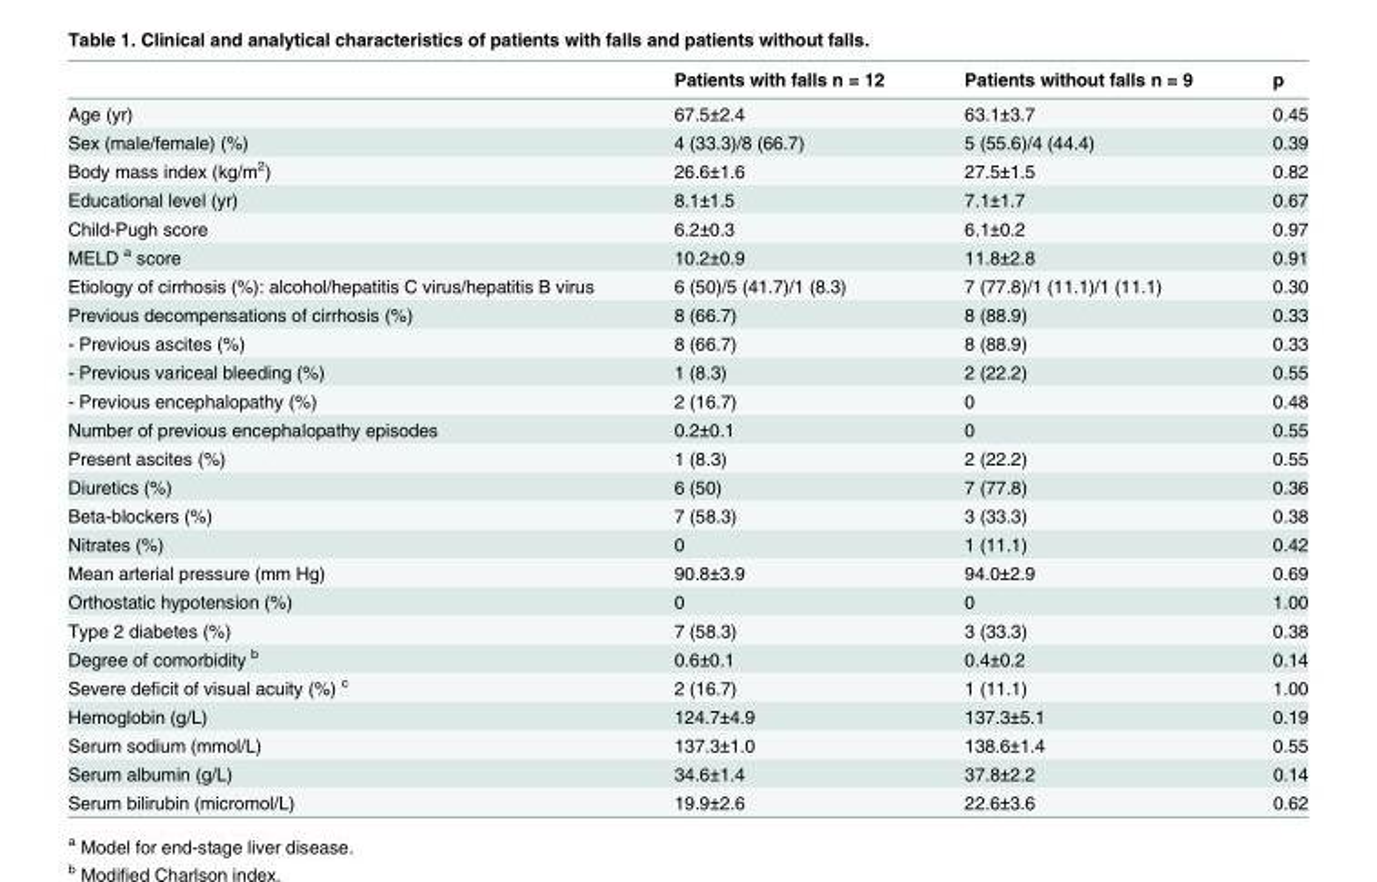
<table><thead><tr><td></td><td>Patients with falls n = 12</td><td>Patients without falls n = 9</td><td>p</td></tr></thead><tbody><tr><td>Age (yr)</td><td>67.5±2.4</td><td>63.1±3.7</td><td>0.45</td></tr><tr><td>Sex (male/female) (%)</td><td>4 (33.3)/8 (66.7)</td><td>5 (55.6)/4 (44.4)</td><td>0.39</td></tr><tr><td>Body mass index (kg/m<sup>2</sup>)</td><td>26.6±1.6</td><td>27.5±1.5</td><td>0.82</td></tr><tr><td>Educational level (yr)</td><td>8.1±1.5</td><td>7.1±1.7</td><td>0.67</td></tr><tr><td>Child-Pugh score</td><td>6.2±0.3</td><td>6.1±0.2</td><td>0.97</td></tr><tr><td>MELD <sup>a</sup> score</td><td>10.2±0.9</td><td>11.8±2.8</td><td>0.91</td></tr><tr><td>Etiology of cirrhosis (%): alcohol/hepatitis C virus/hepatitis B virus</td><td>6 (50)/5 (41.7)/1 (8.3)</td><td>7 (77.8)/1 (11.1)/1 (11.1)</td><td>0.30</td></tr><tr><td>Previous decompensations of cirrhosis (%)</td><td>8 (66.7)</td><td>8 (88.9)</td><td>0.33</td></tr><tr><td>- Previous ascites (%)</td><td>8 (66.7)</td><td>8 (88.9)</td><td>0.33</td></tr><tr><td>- Previous variceal bleeding (%)</td><td>1 (8.3)</td><td>2 (22.2)</td><td>0.55</td></tr><tr><td>- Previous encephalopathy (%)</td><td>2 (16.7)</td><td>0</td><td>0.48</td></tr><tr><td>Number of previous encephalopathy episodes</td><td>0.2±0.1</td><td>0</td><td>0.55</td></tr><tr><td>Present ascites (%)</td><td>1 (8.3)</td><td>2 (22.2)</td><td>0.55</td></tr><tr><td>Diuretics (%)</td><td>6 (50)</td><td>7 (77.8)</td><td>0.36</td></tr><tr><td>Beta-blockers (%)</td><td>7 (58.3)</td><td>3 (33.3)</td><td>0.38</td></tr><tr><td>Nitrates (%)</td><td>0</td><td>1 (11.1)</td><td>0.42</td></tr><tr><td>Mean arterial pressure (mm Hg)</td><td>90.8±3.9</td><td>94.0±2.9</td><td>0.69</td></tr><tr><td>Orthostatic hypotension (%)</td><td>0</td><td>0</td><td>1.00</td></tr><tr><td>Type 2 diabetes (%)</td><td>7 (58.3)</td><td>3 (33.3)</td><td>0.38</td></tr><tr><td>Degree of comorbidity <sup>b</sup></td><td>0.6±0.1</td><td>0.4±0.2</td><td>0.14</td></tr><tr><td>Severe deficit of visual acuity (%) <sup>c</sup></td><td>2 (16.7)</td><td>1 (11.1)</td><td>1.00</td></tr><tr><td>Hemoglobin (g/L)</td><td>124.7±4.9</td><td>137.3±5.1</td><td>0.19</td></tr><tr><td>Serum sodium (mmol/L)</td><td>137.3±1.0</td><td>138.6±1.4</td><td>0.55</td></tr><tr><td>Serum albumin (g/L)</td><td>34.6±1.4</td><td>37.8±2.2</td><td>0.14</td></tr><tr><td>Serum bilirubin (micromol/L)</td><td>19.9±2.6</td><td>22.6±3.6</td><td>0.62</td></tr></tbody></table>